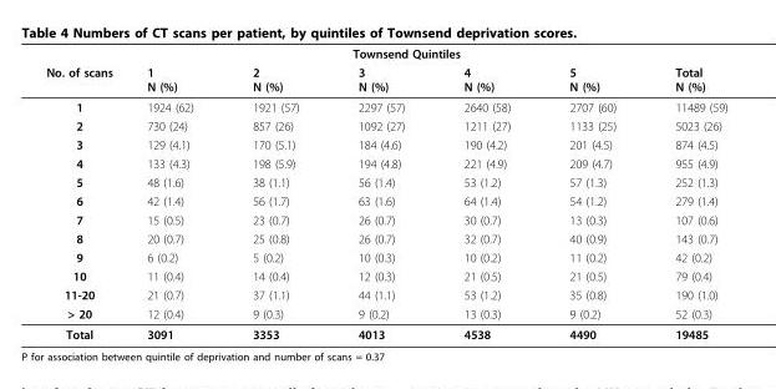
<table><thead><tr><td rowspan="2">No. of scans</td><td colspan="5">Townsend Quintiles</td><td rowspan="2">Total N (%)</td></tr><tr><td>1 N (%)</td><td>2 N (%)</td><td>3 N (%)</td><td>4 N (%)</td><td>5 N (%)</td></tr></thead><tbody><tr><td>1</td><td>1924 (62)</td><td>1921 (57)</td><td>2297 (57)</td><td>2640 (58)</td><td>2707 (60)</td><td>11489 (59)</td></tr><tr><td>2</td><td>730 (24)</td><td>857 (26)</td><td>1092 (27)</td><td>1211 (27)</td><td>1133 (25)</td><td>5023 (26)</td></tr><tr><td>3</td><td>129 (4.1)</td><td>170 (5.1)</td><td>184 (4.6)</td><td>190 (4.2)</td><td>201 (4.5)</td><td>874 (4.5)</td></tr><tr><td>4</td><td>133 (4.3)</td><td>198 (5.9)</td><td>194 (4.8)</td><td>221 (4.9)</td><td>209 (4.7)</td><td>955 (4.9)</td></tr><tr><td>5</td><td>48 (1.6)</td><td>38 (1.1)</td><td>56 (1.4)</td><td>53 (1.2)</td><td>57 (1.3)</td><td>252 (1.3)</td></tr><tr><td>6</td><td>42 (1.4)</td><td>56 (1.7)</td><td>63 (1.6)</td><td>64 (1.4)</td><td>54 (1.2)</td><td>279 (1.4)</td></tr><tr><td>7</td><td>15 (0.5)</td><td>23 (0.7)</td><td>26 (0.7)</td><td>30 (0.7)</td><td>13 (0.3)</td><td>107 (0.6)</td></tr><tr><td>8</td><td>20 (0.7)</td><td>25 (0.8)</td><td>26 (0.7)</td><td>32 (0.7)</td><td>40 (0.9)</td><td>143 (0.7)</td></tr><tr><td>9</td><td>6 (0.2)</td><td>5 (0.2)</td><td>10 (0.3)</td><td>10 (0.2)</td><td>11 (0.2)</td><td>42 (0.2)</td></tr><tr><td>10</td><td>11 (0.4)</td><td>14 (0.4)</td><td>12 (0.3)</td><td>21 (0.5)</td><td>21 (0.5)</td><td>79 (0.4)</td></tr><tr><td>11-20</td><td>21 (0.7)</td><td>37 (1.1)</td><td>44 (1.1)</td><td>53 (1.2)</td><td>35 (0.8)</td><td>190 (1.0)</td></tr><tr><td>&gt; 20</td><td>12 (0.4)</td><td>9 (0.3)</td><td>9 (0.2)</td><td>13 (0.3)</td><td>9 (0.2)</td><td>52 (0.3)</td></tr><tr><td>Total</td><td>3091</td><td>3353</td><td>4013</td><td>4538</td><td>4490</td><td>19485</td></tr></tbody></table>